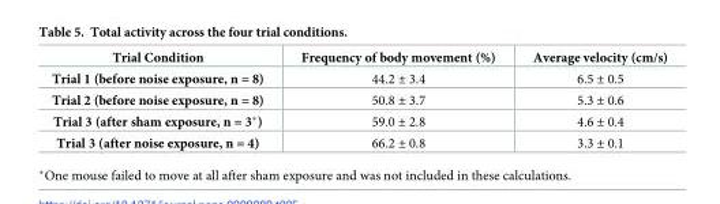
<table><thead><tr><td>Trial Condition</td><td>Frequency of body movement (%)</td><td>Average velocity (cm/s)</td></tr></thead><tbody><tr><td>Trial 1 (before noise exposure, n = 8)</td><td>44.2 ± 3.4</td><td>6.5 ± 0.5</td></tr><tr><td>Trial 2 (before noise exposure, n = 8)</td><td>50.8 ± 3.7</td><td>5.3 ± 0.6</td></tr><tr><td>Trial 3 (after sham exposure, n = 3*)</td><td>59.0 ± 2.8</td><td>4.6 ± 0.4</td></tr><tr><td>Trial 3 (after noise exposure, n = 4)</td><td>66.2 ± 0.8</td><td>3.3 ± 0.1</td></tr></tbody></table>